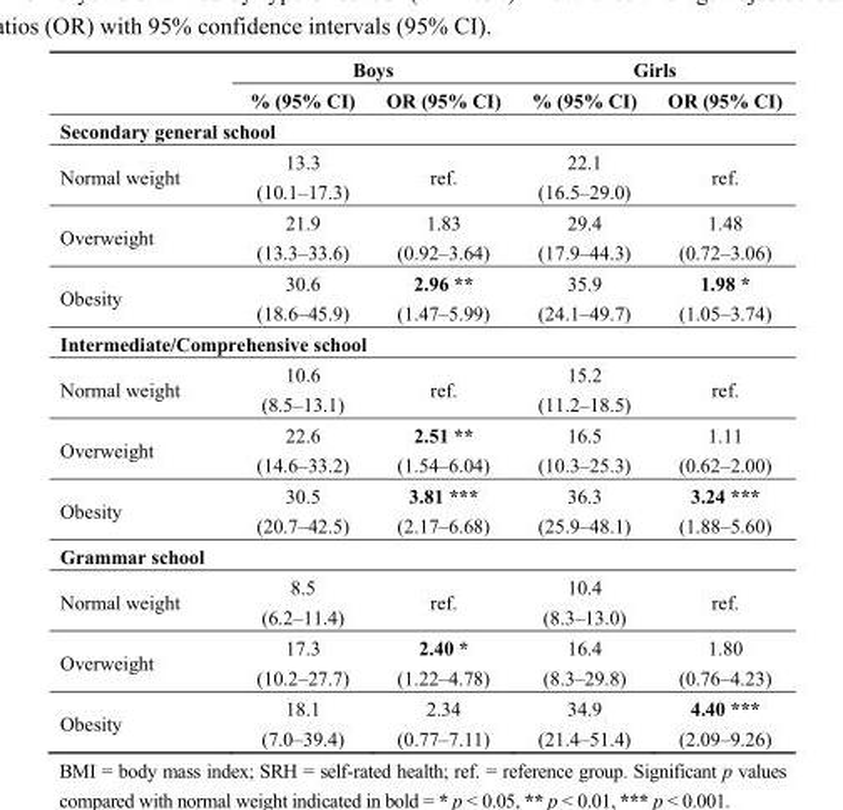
<table><thead><tr><td rowspan="2"></td><td colspan="2">Boys</td><td colspan="2">Girls</td></tr><tr><td>% (95% CI)</td><td>OR (95% CI)</td><td>% (95% CI)</td><td>OR (95% CI)</td></tr></thead><tbody><tr><td colspan="5">Secondary general school</td></tr><tr><td>Normal weight</td><td>13.3 (10.1‒17.3)</td><td>ref.</td><td>22.1 (16.5‒29.0)</td><td>ref.</td></tr><tr><td>Overweight</td><td>21.9 (13.3‒33.6)</td><td>1.83 (0.92‒3.64)</td><td>29.4 (17.9‒44.3)</td><td>1.48 (0.72‒3.06)</td></tr><tr><td>Obesity</td><td>30.6 (18.6‒45.9)</td><td>2.96 ** (1.47‒5.99)</td><td>35.9 (24.1‒49.7)</td><td>1.98 * (1.05‒3.74)</td></tr><tr><td colspan="5">Intermediate/Comprehensive school</td></tr><tr><td>Normal weight</td><td>10.6 (8.5‒13.1)</td><td>ref.</td><td>15.2 (11.2‒18.5)</td><td>ref.</td></tr><tr><td>Overweight</td><td>22.6 (14.6‒33.2)</td><td>2.51 ** (1.54‒6.04)</td><td>16.5 (10.3‒25.3)</td><td>1.11 (0.62‒2.00)</td></tr><tr><td>Obesity</td><td>30.5 (20.7‒42.5)</td><td>3.81 *** (2.17‒6.68)</td><td>36.3 (25.9‒48.1)</td><td>3.24 *** (1.88‒5.60)</td></tr><tr><td colspan="5">Grammar school</td></tr><tr><td>Normal weight</td><td>8.5 (6.2‒11.4)</td><td>ref.</td><td>10.4 (8.3‒13.0)</td><td>ref.</td></tr><tr><td>Overweight</td><td>17.3 (10.2‒27.7)</td><td>2.40 * (1.22‒4.78)</td><td>16.4 (8.3‒29.8)</td><td>1.80 (0.76‒4.23)</td></tr><tr><td>Obesity</td><td>18.1 (7.0‒39.4)</td><td>2.34 (0.77‒7.11)</td><td>34.9 (21.4‒51.4)</td><td>4.40 *** (2.09‒9.26)</td></tr></tbody></table>